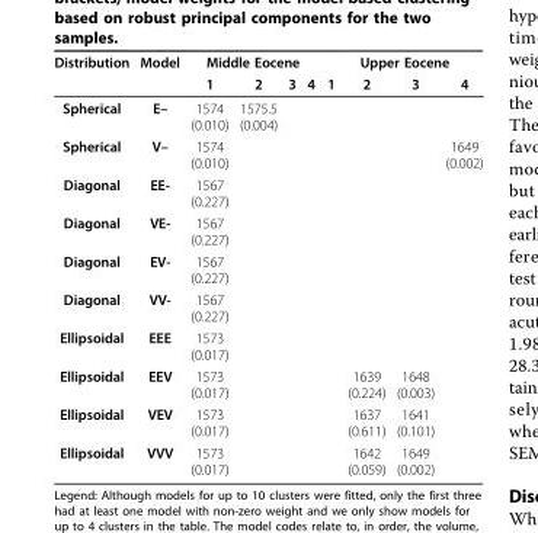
<table><thead><tr><td rowspan="2">Distribution</td><td rowspan="2">Model</td><td colspan="4">Middle Eocene</td><td colspan="4">Upper Eocene</td></tr><tr><td>1</td><td>2</td><td>3</td><td>4</td><td>1</td><td>2</td><td>3</td><td>4</td></tr></thead><tbody><tr><td>Spherical</td><td>E–</td><td>1574 (0.010)</td><td>1575.5 (0.004)</td><td></td><td></td><td></td><td></td><td></td><td></td></tr><tr><td>Spherical</td><td>V–</td><td>1574 (0.010)</td><td></td><td></td><td></td><td></td><td></td><td></td><td>1649 (0.002)</td></tr><tr><td>Diagonal</td><td>EE-</td><td>1567 (0.227)</td><td></td><td></td><td></td><td></td><td></td><td></td><td></td></tr><tr><td>Diagonal</td><td>VE-</td><td>1567 (0.227)</td><td></td><td></td><td></td><td></td><td></td><td></td><td></td></tr><tr><td>Diagonal</td><td>EV-</td><td>1567 (0.227)</td><td></td><td></td><td></td><td></td><td></td><td></td><td></td></tr><tr><td>Diagonal</td><td>VV-</td><td>1567 (0.227)</td><td></td><td></td><td></td><td></td><td></td><td></td><td></td></tr><tr><td>Ellipsoidal</td><td>EEE</td><td>1573 (0.017)</td><td></td><td></td><td></td><td></td><td></td><td></td><td></td></tr><tr><td>Ellipsoidal</td><td>EEV</td><td>1573 (0.017)</td><td></td><td></td><td></td><td></td><td>1639 (0.224)</td><td>1648 (0.003)</td><td></td></tr><tr><td>Ellipsoidal</td><td>VEV</td><td>1573 (0.017)</td><td></td><td></td><td></td><td></td><td>1637 (0.611)</td><td>1641 (0.101)</td><td></td></tr><tr><td>Ellipsoidal</td><td>VVV</td><td>1573 (0.017)</td><td></td><td></td><td></td><td></td><td>1642 (0.059)</td><td>1649 (0.002)</td><td></td></tr></tbody></table>